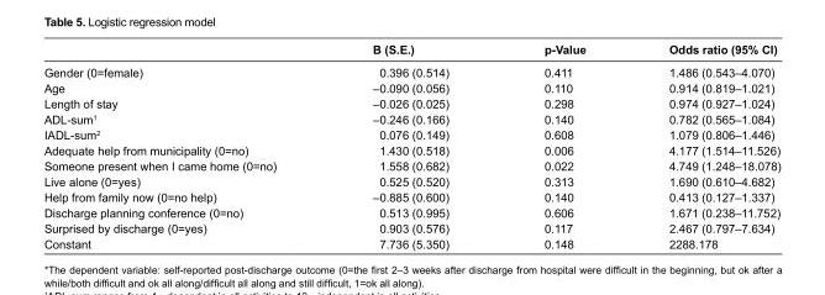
<table><thead><tr><td></td><td>B (S.E.)</td><td>p-Value</td><td>Odds ratio (95% CI)</td></tr></thead><tbody><tr><td>Gender (0=female)</td><td>0.396 (0.514)</td><td>0.411</td><td>1.486 (0.543–4.070)</td></tr><tr><td>Age</td><td>–0.090 (0.056)</td><td>0.110</td><td>0.914 (0.819–1.021)</td></tr><tr><td>Length of stay</td><td>–0.026 (0.025)</td><td>0.298</td><td>0.974 (0.927–1.024)</td></tr><tr><td>ADL-sum<sup>1</sup></td><td>–0.246 (0.166)</td><td>0.140</td><td>0.782 (0.565–1.084)</td></tr><tr><td>IADL-sum<sup>2</sup></td><td>0.076 (0.149)</td><td>0.608</td><td>1.079 (0.806–1.446)</td></tr><tr><td>Adequate help from municipality (0=no)</td><td>1.430 (0.518)</td><td>0.006</td><td>4.177 (1.514–11.526)</td></tr><tr><td>Someone present when I came home (0=no)</td><td>1.558 (0.682)</td><td>0.022</td><td>4.749 (1.248–18.078)</td></tr><tr><td>Live alone (0=yes)</td><td>0.525 (0.520)</td><td>0.313</td><td>1.690 (0.610–4.682)</td></tr><tr><td>Help from family now (0=no help)</td><td>–0.885 (0.600)</td><td>0.140</td><td>0.413 (0.127–1.337)</td></tr><tr><td>Discharge planning conference (0=no)</td><td>0.513 (0.995)</td><td>0.606</td><td>1.671 (0.238–11.752)</td></tr><tr><td>Surprised by discharge (0=yes)</td><td>0.903 (0.576)</td><td>0.117</td><td>2.467 (0.797–7.634)</td></tr><tr><td>Constant</td><td>7.736 (5.350)</td><td>0.148</td><td>2288.178</td></tr></tbody></table>